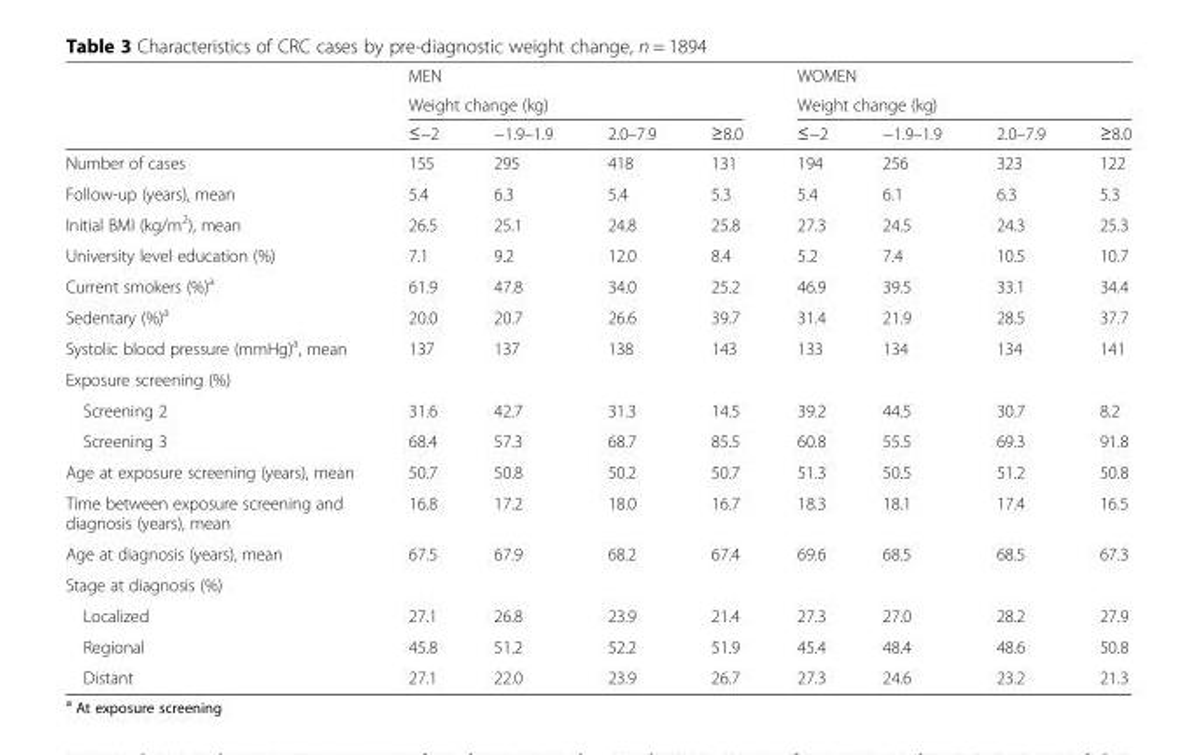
<table><thead><tr><td rowspan="3"></td><td rowspan="2" colspan="4">MEN Weight change (kg)</td><td rowspan="2" colspan="4">WOMEN Weight change (kg)</td></tr><tr></tr><tr><td>≤−2</td><td>−1.9–1.9</td><td>2.0–7.9</td><td>≥8.0</td><td>≤−2</td><td>−1.9–1.9</td><td>2.0–7.9</td><td>≥8.0</td></tr></thead><tbody><tr><td>Number of cases</td><td>155</td><td>295</td><td>418</td><td>131</td><td>194</td><td>256</td><td>323</td><td>122</td></tr><tr><td>Follow-up (years), mean</td><td>5.4</td><td>6.3</td><td>5.4</td><td>5.3</td><td>5.4</td><td>6.1</td><td>6.3</td><td>5.3</td></tr><tr><td>Initial BMI (kg/m<sup>2</sup>), mean</td><td>26.5</td><td>25.1</td><td>24.8</td><td>25.8</td><td>27.3</td><td>24.5</td><td>24.3</td><td>25.3</td></tr><tr><td>University level education (%)</td><td>7.1</td><td>9.2</td><td>12.0</td><td>8.4</td><td>5.2</td><td>7.4</td><td>10.5</td><td>10.7</td></tr><tr><td>Current smokers (%)<sup>a</sup></td><td>61.9</td><td>47.8</td><td>34.0</td><td>25.2</td><td>46.9</td><td>39.5</td><td>33.1</td><td>34.4</td></tr><tr><td>Sedentary (%)<sup>a</sup></td><td>20.0</td><td>20.7</td><td>26.6</td><td>39.7</td><td>31.4</td><td>21.9</td><td>28.5</td><td>37.7</td></tr><tr><td>Systolic blood pressure (mmHg)<sup>a</sup>, mean</td><td>137</td><td>137</td><td>138</td><td>143</td><td>133</td><td>134</td><td>134</td><td>141</td></tr><tr><td colspan="9">Exposure screening (%)</td></tr><tr><td>Screening 2</td><td>31.6</td><td>42.7</td><td>31.3</td><td>14.5</td><td>39.2</td><td>44.5</td><td>30.7</td><td>8.2</td></tr><tr><td>Screening 3</td><td>68.4</td><td>57.3</td><td>68.7</td><td>85.5</td><td>60.8</td><td>55.5</td><td>69.3</td><td>91.8</td></tr><tr><td>Age at exposure screening (years), mean</td><td>50.7</td><td>50.8</td><td>50.2</td><td>50.7</td><td>51.3</td><td>50.5</td><td>51.2</td><td>50.8</td></tr><tr><td>Time between exposure screening and diagnosis (years), mean</td><td>16.8</td><td>17.2</td><td>18.0</td><td>16.7</td><td>18.3</td><td>18.1</td><td>17.4</td><td>16.5</td></tr><tr><td>Age at diagnosis (years), mean</td><td>67.5</td><td>67.9</td><td>68.2</td><td>67.4</td><td>69.6</td><td>68.5</td><td>68.5</td><td>67.3</td></tr><tr><td colspan="9">Stage at diagnosis (%)</td></tr><tr><td>Localized</td><td>27.1</td><td>26.8</td><td>23.9</td><td>21.4</td><td>27.3</td><td>27.0</td><td>28.2</td><td>27.9</td></tr><tr><td>Regional</td><td>45.8</td><td>51.2</td><td>52.2</td><td>51.9</td><td>45.4</td><td>48.4</td><td>48.6</td><td>50.8</td></tr><tr><td>Distant</td><td>27.1</td><td>22.0</td><td>23.9</td><td>26.7</td><td>27.3</td><td>24.6</td><td>23.2</td><td>21.3</td></tr></tbody></table>